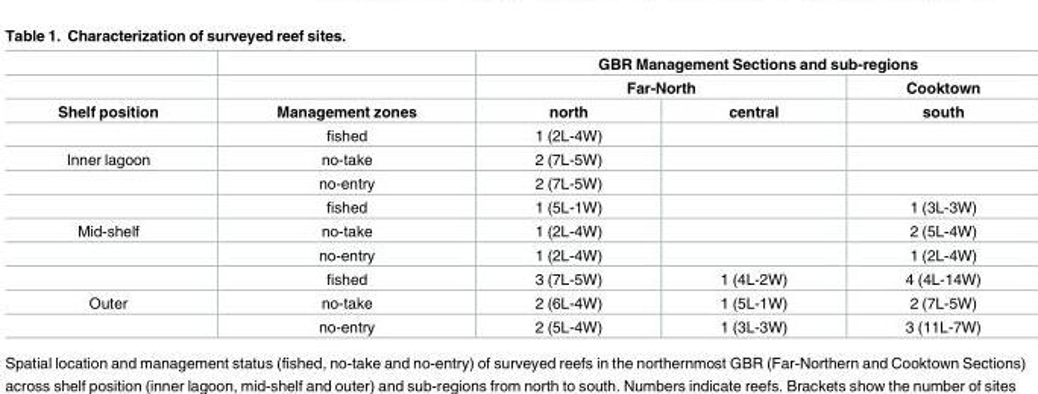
<table><thead><tr><td rowspan="3">Shelf position</td><td rowspan="3">Management zones</td><td colspan="3">GBR Management Sections and sub-regions</td></tr><tr><td colspan="2">Far-North</td><td rowspan="2">Cooktown south</td></tr><tr><td>north</td><td>central</td></tr></thead><tbody><tr><td></td><td>fished</td><td>1 (2L-4W)</td><td></td><td></td></tr><tr><td rowspan="3">Inner lagoon</td><td>no-take</td><td>2 (7L-5W)</td><td></td><td></td></tr><tr><td>no-entry</td><td>2 (7L-5W)</td><td></td><td></td></tr><tr><td>fished</td><td>1 (5L-1W)</td><td></td><td>1 (3L-3W)</td></tr><tr><td rowspan="3">Mid-shelf</td><td>no-take</td><td>1 (2L-4W)</td><td></td><td>2 (5L-4W)</td></tr><tr><td>no-entry</td><td>1 (2L-4W)</td><td></td><td>1 (2L-4W)</td></tr><tr><td>fished</td><td>3 (7L-5W)</td><td>1 (4L-2W)</td><td>4 (4L-14W)</td></tr><tr><td rowspan="2">Outer</td><td>no-take</td><td>2 (6L-4W)</td><td>1 (5L-1W)</td><td>2 (7L-5W)</td></tr><tr><td>no-entry</td><td>2 (5L-4W)</td><td>1 (3L-3W)</td><td>3 (11L-7W)</td></tr></tbody></table>